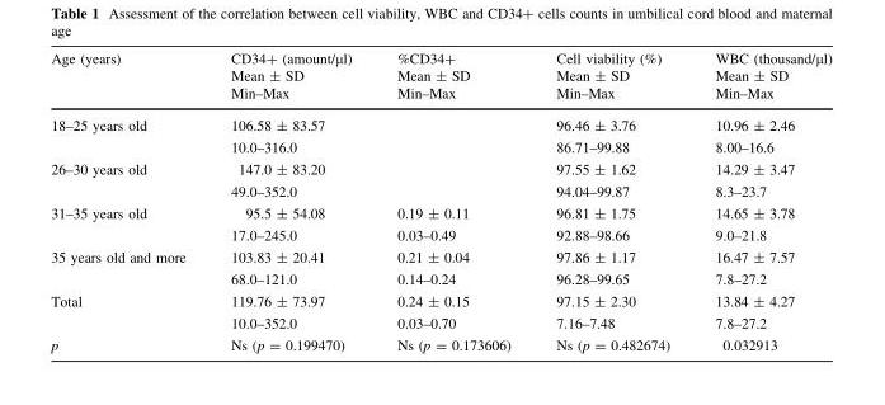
<table><thead><tr><td rowspan="2">Age (years)</td><td rowspan="2">CD34+ (amount/μl) Mean ± SD Min–Max</td><td rowspan="2">%CD34+ Mean ± SD Min–Max</td><td rowspan="2">Cell viability (%) Mean ± SD Min–Max</td><td rowspan="2">WBC (thousand/μl) Mean ± SD Min–Max</td></tr><tr></tr></thead><tbody><tr><td>18–25 years old</td><td>106.58 ± 83.57 10.0–316.0</td><td></td><td>96.46 ± 3.76 86.71–99.88</td><td>10.96 ± 2.46 8.00–16.6</td></tr><tr><td>26–30 years old</td><td>147.0 ± 83.20 49.0–352.0</td><td></td><td>97.55 ± 1.62 94.04–99.87</td><td>14.29 ± 3.47 8.3–23.7</td></tr><tr><td>31–35 years old</td><td>95.5 ± 54.08 17.0–245.0</td><td>0.19 ± 0.11 0.03–0.49</td><td>96.81 ± 1.75 92.88–98.66</td><td>14.65 ± 3.78 9.0–21.8</td></tr><tr><td>35 years old and more</td><td>103.83 ± 20.41 68.0–121.0</td><td>0.21 ± 0.04 0.14–0.24</td><td>97.86 ± 1.17 96.28–99.65</td><td>16.47 ± 7.57 7.8–27.2</td></tr><tr><td>Total</td><td>119.76 ± 73.97 10.0–352.0</td><td>0.24 ± 0.15 0.03–0.70</td><td>97.15 ± 2.30 7.16–7.48</td><td>13.84 ± 4.27 7.8–27.2</td></tr><tr><td>p</td><td>Ns (p = 0.199470)</td><td>Ns (p = 0.173606)</td><td>Ns (p = 0.482674)</td><td>0.032913</td></tr></tbody></table>